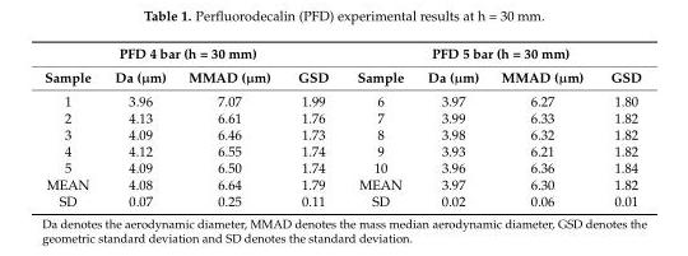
<table><thead><tr><td colspan="4">PFD 4 bar (h = 30 mm)</td><td colspan="4">PFD 5 bar (h = 30 mm)</td></tr><tr><td>Sample</td><td>Da (µm)</td><td>MMAD (µm)</td><td>GSD</td><td>Sample</td><td>Da (µm)</td><td>MMAD (µm)</td><td>GSD</td></tr></thead><tbody><tr><td>1</td><td>3.96</td><td>7.07</td><td>1.99</td><td>6</td><td>3.97</td><td>6.27</td><td>1.80</td></tr><tr><td>2</td><td>4.13</td><td>6.61</td><td>1.76</td><td>7</td><td>3.99</td><td>6.33</td><td>1.82</td></tr><tr><td>3</td><td>4.09</td><td>6.46</td><td>1.73</td><td>8</td><td>3.98</td><td>6.32</td><td>1.82</td></tr><tr><td>4</td><td>4.12</td><td>6.55</td><td>1.74</td><td>9</td><td>3.93</td><td>6.21</td><td>1.82</td></tr><tr><td>5</td><td>4.09</td><td>6.50</td><td>1.74</td><td>10</td><td>3.96</td><td>6.36</td><td>1.84</td></tr><tr><td>MEAN</td><td>4.08</td><td>6.64</td><td>1.79</td><td>MEAN</td><td>3.97</td><td>6.30</td><td>1.82</td></tr><tr><td>SD</td><td>0.07</td><td>0.25</td><td>0.11</td><td>SD</td><td>0.02</td><td>0.06</td><td>0.01</td></tr></tbody></table>